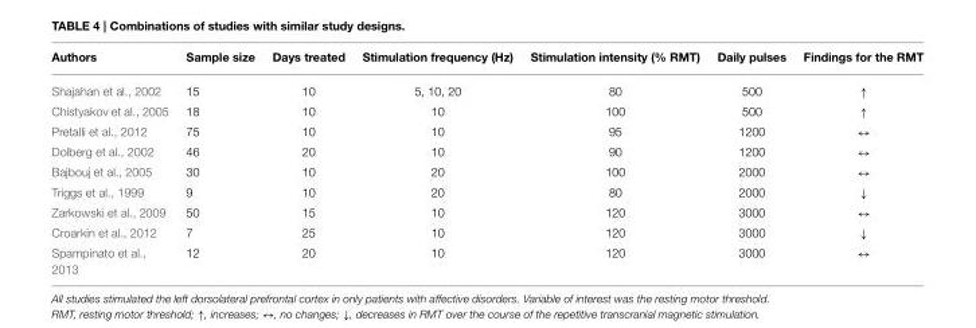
<table><thead><tr><td>Authors</td><td>Sample size</td><td>Days treated</td><td>Stimulation frequency (Hz)</td><td>Stimulation intensity (% RMT)</td><td>Daily pulses</td><td>Findings for the RMT</td></tr></thead><tbody><tr><td>Shajahan et al., 2002</td><td>15</td><td>10</td><td>5, 10, 20</td><td>80</td><td>500</td><td>↑</td></tr><tr><td>Chistyakov et al., 2005</td><td>18</td><td>10</td><td>10</td><td>100</td><td>500</td><td>↑</td></tr><tr><td>Pretalli et al., 2012</td><td>75</td><td>10</td><td>10</td><td>95</td><td>1200</td><td>↔</td></tr><tr><td>Dolberg et al., 2002</td><td>46</td><td>20</td><td>10</td><td>90</td><td>1200</td><td>↔</td></tr><tr><td>Bajbouj et al., 2005</td><td>30</td><td>10</td><td>20</td><td>100</td><td>2000</td><td>↔</td></tr><tr><td>Triggs et al., 1999</td><td>9</td><td>10</td><td>20</td><td>80</td><td>2000</td><td>↓</td></tr><tr><td>Zarkowski et al., 2009</td><td>50</td><td>15</td><td>10</td><td>120</td><td>3000</td><td>↔</td></tr><tr><td>Croarkin et al., 2012</td><td>7</td><td>25</td><td>10</td><td>120</td><td>3000</td><td>↓</td></tr><tr><td>Spampinato et al., 2013</td><td>12</td><td>20</td><td>10</td><td>120</td><td>3000</td><td>↔</td></tr></tbody></table>